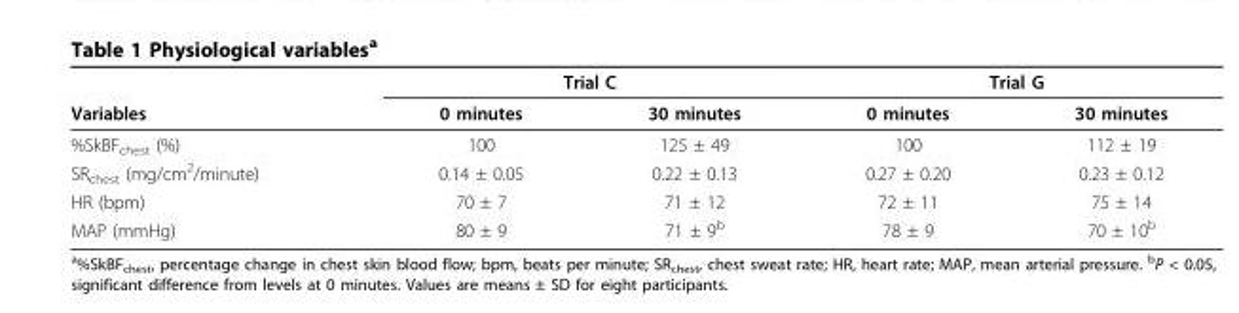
<table><thead><tr><td rowspan="2">Variables</td><td colspan="2">Trial C</td><td colspan="2">Trial G</td></tr><tr><td>0 minutes</td><td>30 minutes</td><td>0 minutes</td><td>30 minutes</td></tr></thead><tbody><tr><td>%SkBF<sub>chest</sub> (%)</td><td>100</td><td>125 ± 49</td><td>100</td><td>112 ± 19</td></tr><tr><td>SR<sub>chest</sub> (mg/cm<sup>2</sup>/minute)</td><td>0.14 ± 0.05</td><td>0.22 ± 0.13</td><td>0.27 ± 0.20</td><td>0.23 ± 0.12</td></tr><tr><td>HR (bpm)</td><td>70 ± 7</td><td>71 ± 12</td><td>72 ± 11</td><td>75 ± 14</td></tr><tr><td>MAP (mmHg)</td><td>80 ± 9</td><td>71 ± 9<sup>b</sup></td><td>78 ± 9</td><td>70 ± 10<sup>b</sup></td></tr></tbody></table>